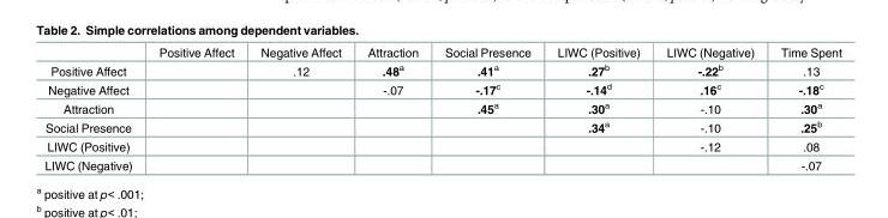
<table><thead><tr><td></td><td>Positive Affect</td><td>Negative Affect</td><td>Attraction</td><td>Social Presence</td><td>LIWC (Positive)</td><td>LIWC (Negative)</td><td>Time Spent</td></tr></thead><tbody><tr><td>Positive Affect</td><td></td><td>.12</td><td>.48<sup>a</sup></td><td>.41<sup>a</sup></td><td>.27<sup>b</sup></td><td>-.22<sup>b</sup></td><td>.13</td></tr><tr><td>Negative Affect</td><td></td><td></td><td>-.07</td><td>-.17<sup>c</sup></td><td>-.14<sup>d</sup></td><td>.16<sup>c</sup></td><td>-.18<sup>c</sup></td></tr><tr><td>Attraction</td><td></td><td></td><td></td><td>.45<sup>a</sup></td><td>.30<sup>a</sup></td><td>-.10</td><td>.30<sup>a</sup></td></tr><tr><td>Social Presence</td><td></td><td></td><td></td><td></td><td>.34<sup>a</sup></td><td>-.10</td><td>.25<sup>b</sup></td></tr><tr><td>LIWC (Positive)</td><td></td><td></td><td></td><td></td><td></td><td>-.12</td><td>.08</td></tr><tr><td>LIWC (Negative)</td><td></td><td></td><td></td><td></td><td></td><td></td><td>-.07</td></tr></tbody></table>